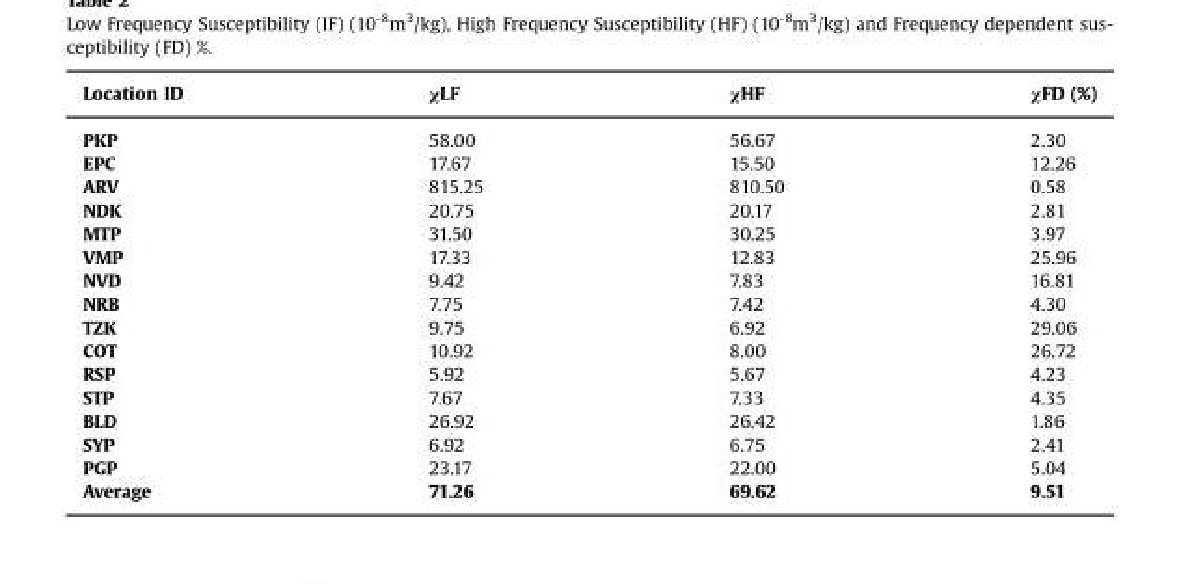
<table><thead><tr><td>Location ID</td><td>χLF</td><td>χHF</td><td>χFD (%)</td></tr></thead><tbody><tr><td>PKP</td><td>58.00</td><td>56.67</td><td>2.30</td></tr><tr><td>EPC</td><td>17.67</td><td>15.50</td><td>12.26</td></tr><tr><td>ARV</td><td>815.25</td><td>810.50</td><td>0.58</td></tr><tr><td>NDK</td><td>20.75</td><td>20.17</td><td>2.81</td></tr><tr><td>MTP</td><td>31.50</td><td>30.25</td><td>3.97</td></tr><tr><td>VMP</td><td>17.33</td><td>12.83</td><td>25.96</td></tr><tr><td>NVD</td><td>9.42</td><td>7.83</td><td>16.81</td></tr><tr><td>NRB</td><td>7.75</td><td>7.42</td><td>4.30</td></tr><tr><td>TZK</td><td>9.75</td><td>6.92</td><td>29.06</td></tr><tr><td>COT</td><td>10.92</td><td>8.00</td><td>26.72</td></tr><tr><td>RSP</td><td>5.92</td><td>5.67</td><td>4.23</td></tr><tr><td>STP</td><td>7.67</td><td>7.33</td><td>4.35</td></tr><tr><td>BLD</td><td>26.92</td><td>26.42</td><td>1.86</td></tr><tr><td>SYP</td><td>6.92</td><td>6.75</td><td>2.41</td></tr><tr><td>PGP</td><td>23.17</td><td>22.00</td><td>5.04</td></tr><tr><td>Average</td><td>71.26</td><td>69.62</td><td>9.51</td></tr></tbody></table>